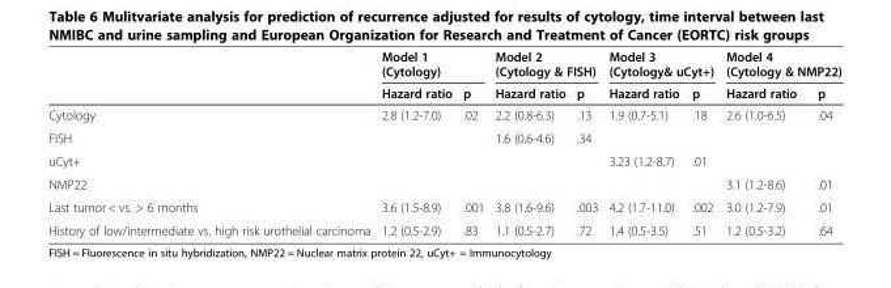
<table><thead><tr><td rowspan="2"></td><td colspan="2">Model 1 (Cytology)</td><td colspan="2">Model 2 (Cytology &amp; FISH)</td><td colspan="2">Model 3 (Cytology&amp; uCyt+)</td><td colspan="2">Model 4 (Cytology &amp; NMP22)</td></tr><tr><td>Hazard ratio</td><td>p</td><td>Hazard ratio</td><td>p</td><td>Hazard ratio</td><td>p</td><td>Hazard ratio</td><td>p</td></tr></thead><tbody><tr><td>Cytology</td><td>2.8 (1.2-7.0)</td><td>.02</td><td>2.2 (0.8-6.3)</td><td>.13</td><td>1.9 (0.7-5.1)</td><td>.18</td><td>2.6 (1.0-6.5)</td><td>.04</td></tr><tr><td>FISH</td><td colspan="2"></td><td>1.6 (0.6-4.6)</td><td>.34</td><td colspan="2"></td><td colspan="2"></td></tr><tr><td>uCyt+</td><td rowspan="2" colspan="4"></td><td>3.23 (1.2-8.7)</td><td>.01</td><td colspan="2"></td></tr><tr><td>NMP22</td><td colspan="2"></td><td>3.1 (1.2-8.6)</td><td>.01</td></tr><tr><td>Last tumor &lt; vs. &gt; 6 months</td><td>3.6 (1.5-8.9)</td><td>.001</td><td>3.8 (1.6-9.6)</td><td>.003</td><td>4.2 (1.7-11.0)</td><td>.002</td><td>3.0 (1.2-7.9)</td><td>.01</td></tr><tr><td>History of low/intermediate vs. high risk urothelial carcinoma</td><td>1.2 (0.5-2.9)</td><td>.83</td><td>1.1 (0.5-2.7)</td><td>.72</td><td>1.4 (0.5-3.5)</td><td>.51</td><td>1.2 (0.5-3.2)</td><td>.64</td></tr></tbody></table>